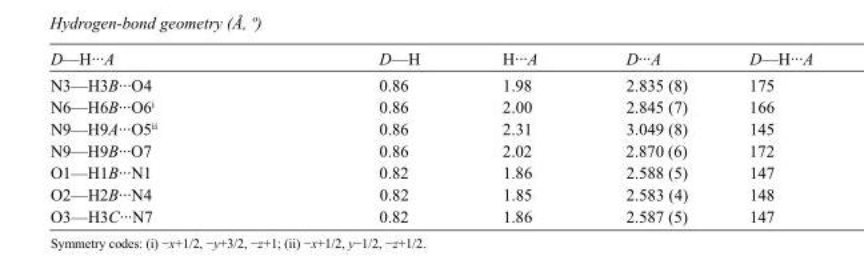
<table><tbody><tr><td>D—H···A</td><td>D—H</td><td>H···A</td><td>D···A</td><td>D—H···A</td></tr><tr><td>N3—H3B···O4</td><td>0.86</td><td>1.98</td><td>2.835 (8)</td><td>175</td></tr><tr><td>N6—H6B···O6<sup>i</sup></td><td>0.86</td><td>2.00</td><td>2.845 (7)</td><td>166</td></tr><tr><td>N9—H9A···O5<sup>ii</sup></td><td>0.86</td><td>2.31</td><td>3.049 (8)</td><td>145</td></tr><tr><td>N9—H9B···O7</td><td>0.86</td><td>2.02</td><td>2.870 (6)</td><td>172</td></tr><tr><td>O1—H1B···N1</td><td>0.82</td><td>1.86</td><td>2.588 (5)</td><td>147</td></tr><tr><td>O2—H2B···N4</td><td>0.82</td><td>1.85</td><td>2.583 (4)</td><td>148</td></tr><tr><td>O3—H3C···N7</td><td>0.82</td><td>1.86</td><td>2.587 (5)</td><td>147</td></tr></tbody></table>